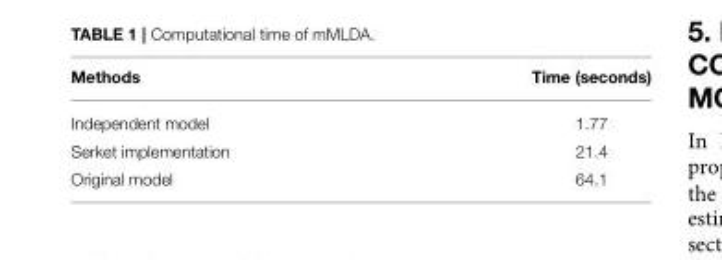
<table><thead><tr><td>Methods</td><td>Time (seconds)</td></tr></thead><tbody><tr><td>Independent model</td><td>1.77</td></tr><tr><td>Serket implementation</td><td>21.4</td></tr><tr><td>Original model</td><td>64.1</td></tr></tbody></table>